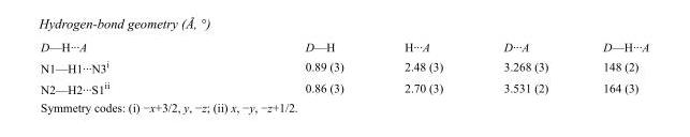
<table><tbody><tr><td>D—H···A</td><td>D—H</td><td>H···A</td><td>D···A</td><td>D—H···A</td></tr><tr><td>N1—H1···N3<sup>i</sup></td><td>0.89 (3)</td><td>2.48 (3)</td><td>3.268 (3)</td><td>148 (2)</td></tr><tr><td>N2—H2···S1<sup>ii</sup></td><td>0.86 (3)</td><td>2.70 (3)</td><td>3.531 (2)</td><td>164 (3)</td></tr></tbody></table>